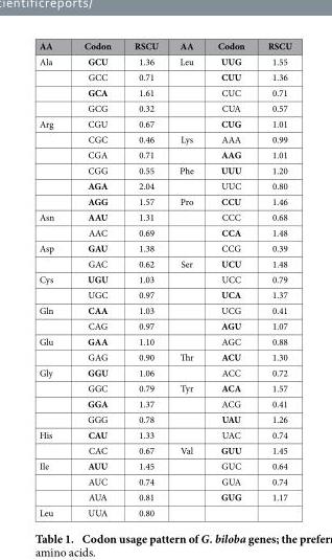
<table><thead><tr><td>AA</td><td>Codon</td><td>RSCU</td><td>AA</td><td>Codon</td><td>RSCU</td></tr></thead><tbody><tr><td rowspan="4">Ala</td><td>GCU</td><td>1.36</td><td>Leu</td><td>UUG</td><td>1.55</td></tr><tr><td>GCC</td><td>0.71</td><td></td><td>CUU</td><td>1.36</td></tr><tr><td>GCA</td><td>1.61</td><td></td><td>CUC</td><td>0.71</td></tr><tr><td>GCG</td><td>0.32</td><td></td><td>CUA</td><td>0.57</td></tr><tr><td rowspan="6">Arg</td><td>CGU</td><td>0.67</td><td></td><td>CUG</td><td>1.01</td></tr><tr><td>CGC</td><td>0.46</td><td>Lys</td><td>AAA</td><td>0.99</td></tr><tr><td>CGA</td><td>0.71</td><td></td><td>AAG</td><td>1.01</td></tr><tr><td>CGG</td><td>0.55</td><td>Phe</td><td>UUU</td><td>1.20</td></tr><tr><td>AGA</td><td>2.04</td><td></td><td>UUC</td><td>0.80</td></tr><tr><td>AGG</td><td>1.57</td><td>Pro</td><td>CCU</td><td>1.46</td></tr><tr><td rowspan="2">Asn</td><td>AAU</td><td>1.31</td><td></td><td>CCC</td><td>0.68</td></tr><tr><td>AAC</td><td>0.69</td><td></td><td>CCA</td><td>1.48</td></tr><tr><td rowspan="2">Asp</td><td>GAU</td><td>1.38</td><td></td><td>CCG</td><td>0.39</td></tr><tr><td>GAC</td><td>0.62</td><td>Ser</td><td>UCU</td><td>1.48</td></tr><tr><td rowspan="2">Cys</td><td>UGU</td><td>1.03</td><td></td><td>UCC</td><td>0.79</td></tr><tr><td>UGC</td><td>0.97</td><td></td><td>UCA</td><td>1.37</td></tr><tr><td rowspan="2">Gln</td><td>CAA</td><td>1.03</td><td></td><td>UCG</td><td>0.41</td></tr><tr><td>CAG</td><td>0.97</td><td></td><td>AGU</td><td>1.07</td></tr><tr><td rowspan="2">Glu</td><td>GAA</td><td>1.10</td><td></td><td>AGC</td><td>0.88</td></tr><tr><td>GAG</td><td>0.90</td><td>Thr</td><td>ACU</td><td>1.30</td></tr><tr><td rowspan="4">Gly</td><td>GGU</td><td>1.06</td><td></td><td>ACC</td><td>0.72</td></tr><tr><td>GGC</td><td>0.79</td><td>Tyr</td><td>ACA</td><td>1.57</td></tr><tr><td>GGA</td><td>1.37</td><td></td><td>ACG</td><td>0.41</td></tr><tr><td>GGG</td><td>0.78</td><td></td><td>UAU</td><td>1.26</td></tr><tr><td rowspan="2">His</td><td>CAU</td><td>1.33</td><td></td><td>UAC</td><td>0.74</td></tr><tr><td>CAC</td><td>0.67</td><td>Val</td><td>GUU</td><td>1.45</td></tr><tr><td rowspan="3">Ile</td><td>AUU</td><td>1.45</td><td></td><td>GUC</td><td>0.64</td></tr><tr><td>AUC</td><td>0.74</td><td></td><td>GUA</td><td>0.74</td></tr><tr><td>AUA</td><td>0.81</td><td></td><td>GUG</td><td>1.17</td></tr><tr><td>Leu</td><td>UUA</td><td>0.80</td><td></td><td></td><td></td></tr></tbody></table>